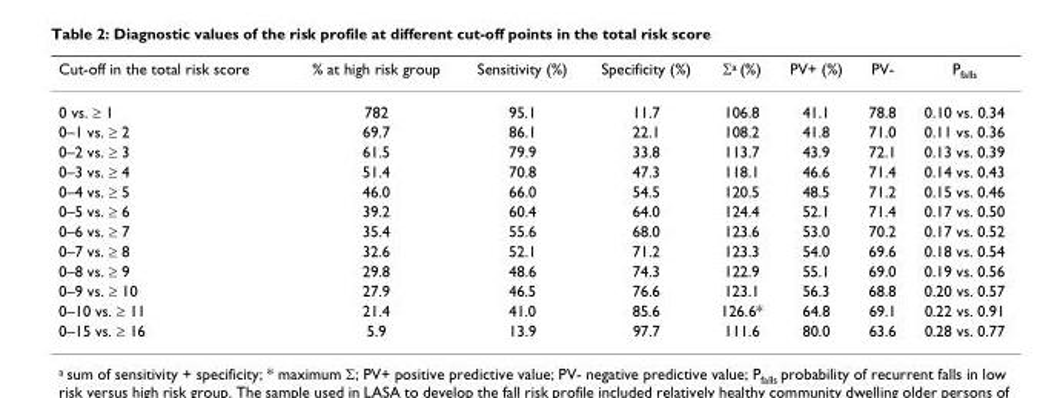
<table><thead><tr><td>Cut-off in the total risk score</td><td>% at high risk group</td><td>Sensitivity (%)</td><td>Specificity (%)</td><td>Σ<sup>a</sup> (%)</td><td>PV+ (%)</td><td>PV-</td><td>P<sub>falls</sub></td></tr></thead><tbody><tr><td>0 vs. ≥ 1</td><td>782</td><td>95.1</td><td>11.7</td><td>106.8</td><td>41.1</td><td>78.8</td><td>0.10 vs. 0.34</td></tr><tr><td>0–1 vs. ≥ 2</td><td>69.7</td><td>86.1</td><td>22.1</td><td>108.2</td><td>41.8</td><td>71.0</td><td>0.11 vs. 0.36</td></tr><tr><td>0–2 vs. ≥ 3</td><td>61.5</td><td>79.9</td><td>33.8</td><td>113.7</td><td>43.9</td><td>72.1</td><td>0.13 vs. 0.39</td></tr><tr><td>0–3 vs. ≥ 4</td><td>51.4</td><td>70.8</td><td>47.3</td><td>118.1</td><td>46.6</td><td>71.4</td><td>0.14 vs. 0.43</td></tr><tr><td>0–4 vs. ≥ 5</td><td>46.0</td><td>66.0</td><td>54.5</td><td>120.5</td><td>48.5</td><td>71.2</td><td>0.15 vs. 0.46</td></tr><tr><td>0–5 vs. ≥ 6</td><td>39.2</td><td>60.4</td><td>64.0</td><td>124.4</td><td>52.1</td><td>71.4</td><td>0.17 vs. 0.50</td></tr><tr><td>0–6 vs. ≥ 7</td><td>35.4</td><td>55.6</td><td>68.0</td><td>123.6</td><td>53.0</td><td>70.2</td><td>0.17 vs. 0.52</td></tr><tr><td>0–7 vs. ≥ 8</td><td>32.6</td><td>52.1</td><td>71.2</td><td>123.3</td><td>54.0</td><td>69.6</td><td>0.18 vs. 0.54</td></tr><tr><td>0–8 vs. ≥ 9</td><td>29.8</td><td>48.6</td><td>74.3</td><td>122.9</td><td>55.1</td><td>69.0</td><td>0.19 vs. 0.56</td></tr><tr><td>0–9 vs. ≥ 10</td><td>27.9</td><td>46.5</td><td>76.6</td><td>123.1</td><td>56.3</td><td>68.8</td><td>0.20 vs. 0.57</td></tr><tr><td>0–10 vs. ≥ 11</td><td>21.4</td><td>41.0</td><td>85.6</td><td>126.6*</td><td>64.8</td><td>69.1</td><td>0.22 vs. 0.91</td></tr><tr><td>0–15 vs. ≥ 16</td><td>5.9</td><td>13.9</td><td>97.7</td><td>111.6</td><td>80.0</td><td>63.6</td><td>0.28 vs. 0.77</td></tr></tbody></table>